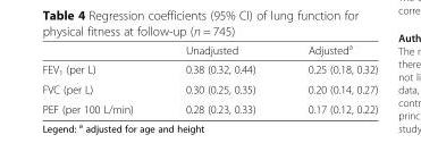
<table><thead><tr><td></td><td>Unadjusted</td><td>Adjusted<sup>a</sup></td></tr></thead><tbody><tr><td>FEV<sub>1</sub> (per L)</td><td>0.38 (0.32, 0.44)</td><td>0.25 (0.18, 0.32)</td></tr><tr><td>FVC (per L)</td><td>0.30 (0.25, 0.35)</td><td>0.20 (0.14, 0.27)</td></tr><tr><td>PEF (per 100 L/min)</td><td>0.28 (0.23, 0.33)</td><td>0.17 (0.12, 0.22)</td></tr></tbody></table>